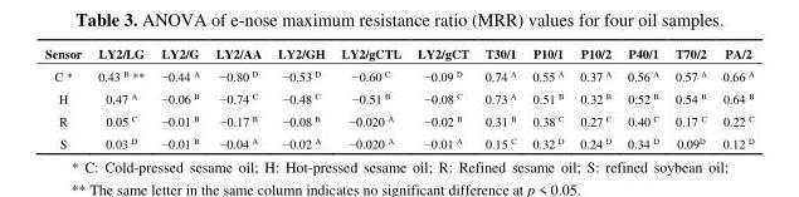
<table><thead><tr><td>Sensor</td><td>LY2/LG</td><td>LY2/G</td><td>LY2/AA</td><td>LY2/GH</td><td>LY2/gCTL</td><td>LY2/gCT</td><td>T30/1</td><td>P10/1</td><td>P10/2</td><td>P40/1</td><td>T70/2</td><td>PA/2</td></tr></thead><tbody><tr><td>C *</td><td>0.43 <sup>B</sup> **</td><td>−0.44 <sup>A</sup></td><td>−0.80 <sup>D</sup></td><td>−0.53 <sup>D</sup></td><td>−0.60 <sup>C</sup></td><td>−0.09 <sup>D</sup></td><td>0.74 <sup>A</sup></td><td>0.55 <sup>A</sup></td><td>0.37 <sup>A</sup></td><td>0.56 <sup>A</sup></td><td>0.57 <sup>A</sup></td><td>0.66 <sup>A</sup></td></tr><tr><td>H</td><td>0.47 <sup>A</sup></td><td>−0.06 <sup>B</sup></td><td>−0.74 <sup>C</sup></td><td>−0.48 <sup>C</sup></td><td>−0.51 <sup>B</sup></td><td>−0.08 <sup>C</sup></td><td>0.73 <sup>A</sup></td><td>0.51 <sup>B</sup></td><td>0.32 <sup>B</sup></td><td>0.52 <sup>B</sup></td><td>0.54 <sup>B</sup></td><td>0.64 <sup>B</sup></td></tr><tr><td>R</td><td>0.05 <sup>C</sup></td><td>−0.01 <sup>B</sup></td><td>−0.17 <sup>B</sup></td><td>−0.08 <sup>B</sup></td><td>−0.020 <sup>A</sup></td><td>−0.02 <sup>B</sup></td><td>0.31 <sup>B</sup></td><td>0.38 <sup>C</sup></td><td>0.27 <sup>C</sup></td><td>0.40 <sup>C</sup></td><td>0.17 <sup>C</sup></td><td>0.22 <sup>C</sup></td></tr><tr><td>S</td><td>0.03 <sup>D</sup></td><td>−0.01 <sup>B</sup></td><td>−0.04 <sup>A</sup></td><td>−0.02 <sup>A</sup></td><td>−0.020 <sup>A</sup></td><td>−0.01 <sup>A</sup></td><td>0.15 <sup>C</sup></td><td>0.32 <sup>D</sup></td><td>0.24 <sup>D</sup></td><td>0.34 <sup>D</sup></td><td>0.09<sup>D</sup></td><td>0.12 <sup>D</sup></td></tr></tbody></table>